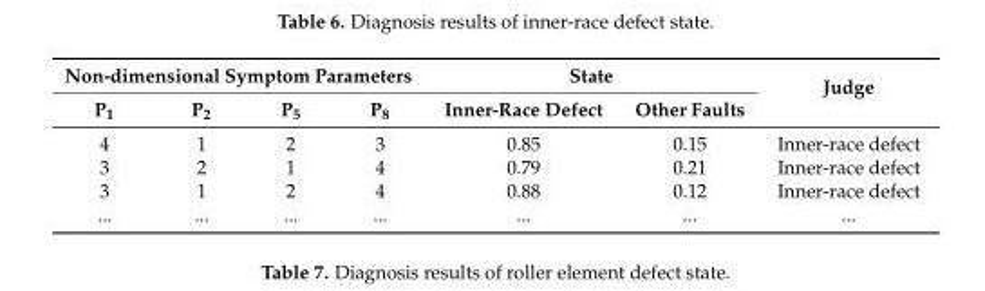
<table><thead><tr><td colspan="4">Non-dimensional Symptom Parameters</td><td colspan="2">State</td><td rowspan="2">Judge</td></tr><tr><td>P<sub>1</sub></td><td>P<sub>2</sub></td><td>P<sub>5</sub></td><td>P<sub>8</sub></td><td>Inner-Race Defect</td><td>Other Faults</td></tr></thead><tbody><tr><td>4</td><td>1</td><td>2</td><td>3</td><td>0.85</td><td>0.15</td><td>Inner-race defect</td></tr><tr><td>3</td><td>2</td><td>1</td><td>4</td><td>0.79</td><td>0.21</td><td>Inner-race defect</td></tr><tr><td>3</td><td>1</td><td>2</td><td>4</td><td>0.88</td><td>0.12</td><td>Inner-race defect</td></tr><tr><td>...</td><td>...</td><td>...</td><td>...</td><td>...</td><td>...</td><td>...</td></tr></tbody></table>